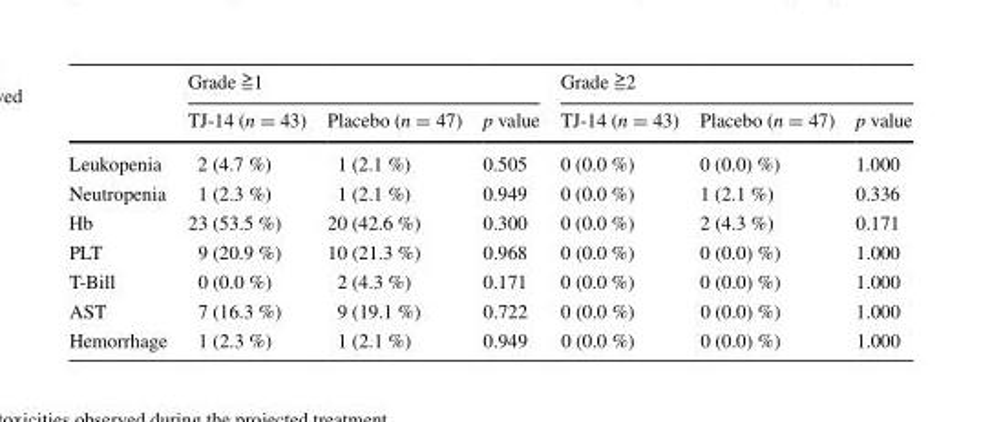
<table><thead><tr><td rowspan="2"></td><td colspan="3">Grade ≧1</td><td colspan="3">Grade ≧2</td></tr><tr><td>TJ-14 (n = 43)</td><td>Placebo (n = 47)</td><td>p value</td><td>TJ-14 (n = 43)</td><td>Placebo (n = 47)</td><td>p value</td></tr></thead><tbody><tr><td>Leukopenia</td><td>2 (4.7 %)</td><td>1 (2.1 %)</td><td>0.505</td><td>0 (0.0 %)</td><td>0 (0.0) %)</td><td>1.000</td></tr><tr><td>Neutropenia</td><td>1 (2.3 %)</td><td>1 (2.1 %)</td><td>0.949</td><td>0 (0.0 %)</td><td>1 (2.1 %)</td><td>0.336</td></tr><tr><td>Hb</td><td>23 (53.5 %)</td><td>20 (42.6 %)</td><td>0.300</td><td>0 (0.0 %)</td><td>2 (4.3 %)</td><td>0.171</td></tr><tr><td>PLT</td><td>9 (20.9 %)</td><td>10 (21.3 %)</td><td>0.968</td><td>0 (0.0 %)</td><td>0 (0.0) %)</td><td>1.000</td></tr><tr><td>T-Bill</td><td>0 (0.0 %)</td><td>2 (4.3 %)</td><td>0.171</td><td>0 (0.0 %)</td><td>0 (0.0) %)</td><td>1.000</td></tr><tr><td>AST</td><td>7 (16.3 %)</td><td>9 (19.1 %)</td><td>0.722</td><td>0 (0.0 %)</td><td>0 (0.0) %)</td><td>1.000</td></tr><tr><td>Hemorrhage</td><td>1 (2.3 %)</td><td>1 (2.1 %)</td><td>0.949</td><td>0 (0.0 %)</td><td>0 (0.0) %)</td><td>1.000</td></tr></tbody></table>